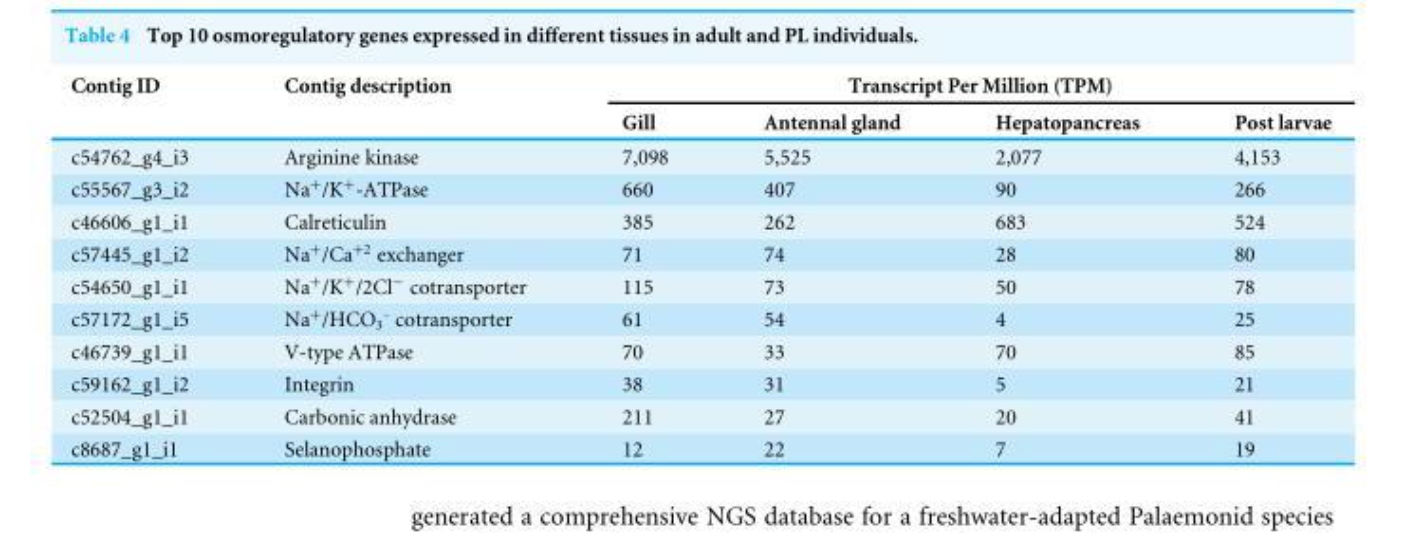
<table><thead><tr><td rowspan="2">Contig ID</td><td rowspan="2">Contig description</td><td colspan="4">Transcript Per Million (TPM)</td></tr><tr><td>Gill</td><td>Antennal gland</td><td>Hepatopancreas</td><td>Post larvae</td></tr></thead><tbody><tr><td>c54762_g4_i3</td><td>Arginine kinase</td><td>7,098</td><td>5,525</td><td>2,077</td><td>4,153</td></tr><tr><td>c55567_g3_i2</td><td>Na<sup>+</sup>/K<sup>+</sup>-ATPase</td><td>660</td><td>407</td><td>90</td><td>266</td></tr><tr><td>c46606_g1_i1</td><td>Calreticulin</td><td>385</td><td>262</td><td>683</td><td>524</td></tr><tr><td>c57445_g1_i2</td><td>Na<sup>+</sup>/Ca<sup>+2</sup> exchanger</td><td>71</td><td>74</td><td>28</td><td>80</td></tr><tr><td>c54650_g1_i1</td><td>Na<sup>+</sup>/K<sup>+</sup>/2Cl<sup>−</sup> cotransporter</td><td>115</td><td>73</td><td>50</td><td>78</td></tr><tr><td>c57172_g1_i5</td><td>Na<sup>+</sup>/HCO<sub>3</sub><sup>-</sup> cotransporter</td><td>61</td><td>54</td><td>4</td><td>25</td></tr><tr><td>c46739_g1_i1</td><td>V-type ATPase</td><td>70</td><td>33</td><td>70</td><td>85</td></tr><tr><td>c59162_g1_i2</td><td>Integrin</td><td>38</td><td>31</td><td>5</td><td>21</td></tr><tr><td>c52504_g1_i1</td><td>Carbonic anhydrase</td><td>211</td><td>27</td><td>20</td><td>41</td></tr><tr><td>c8687_g1_i1</td><td>Selanophosphate</td><td>12</td><td>22</td><td>7</td><td>19</td></tr></tbody></table>